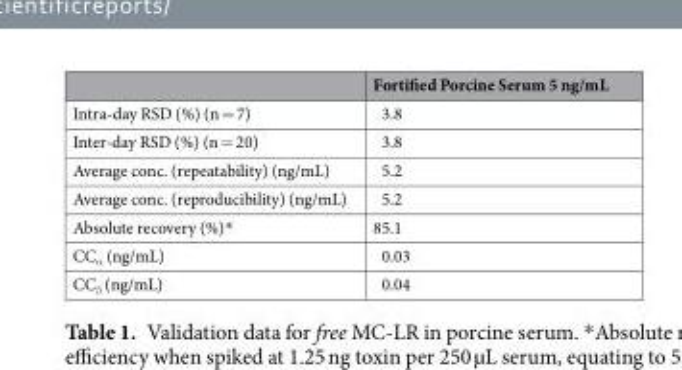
<table><thead><tr><td></td><td>Fortified Porcine Serum 5 ng/mL</td></tr></thead><tbody><tr><td>Intra-day RSD (%) (n = 7)</td><td>3.8</td></tr><tr><td>Inter-day RSD (%) (n = 20)</td><td>3.8</td></tr><tr><td>Average conc. (repeatability) (ng/mL)</td><td>5.2</td></tr><tr><td>Average conc. (reproducibility) (ng/mL)</td><td>5.2</td></tr><tr><td>Absolute recovery (%)*</td><td>85.1</td></tr><tr><td>CC<sub>α</sub> (ng/mL)</td><td>0.03</td></tr><tr><td>CC<sub>β</sub> (ng/mL)</td><td>0.04</td></tr></tbody></table>